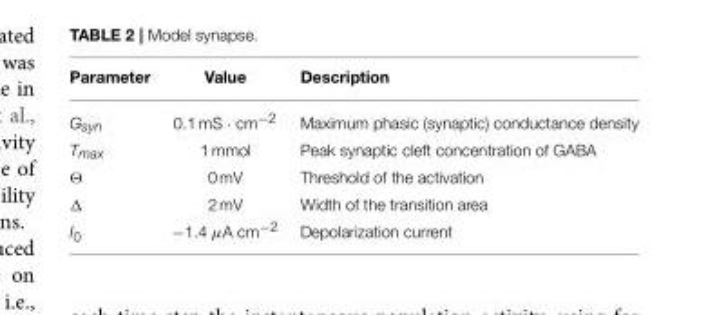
<table><thead><tr><td>Parameter</td><td>Value</td><td>Description</td></tr></thead><tbody><tr><td>G<sub>syn</sub></td><td>0.1 mS · cm<sup>−2</sup></td><td>Maximum phasic (synaptic) conductance density</td></tr><tr><td>T<sub>max</sub></td><td>1 mmol</td><td>Peak synaptic cleft concentration of GABA</td></tr><tr><td>Θ</td><td>0 mV</td><td>Threshold of the activation</td></tr><tr><td>Δ</td><td>2 mV</td><td>Width of the transition area</td></tr><tr><td>I<sub>0</sub></td><td>−1.4 µA cm<sup>−2</sup></td><td>Depolarization current</td></tr></tbody></table>